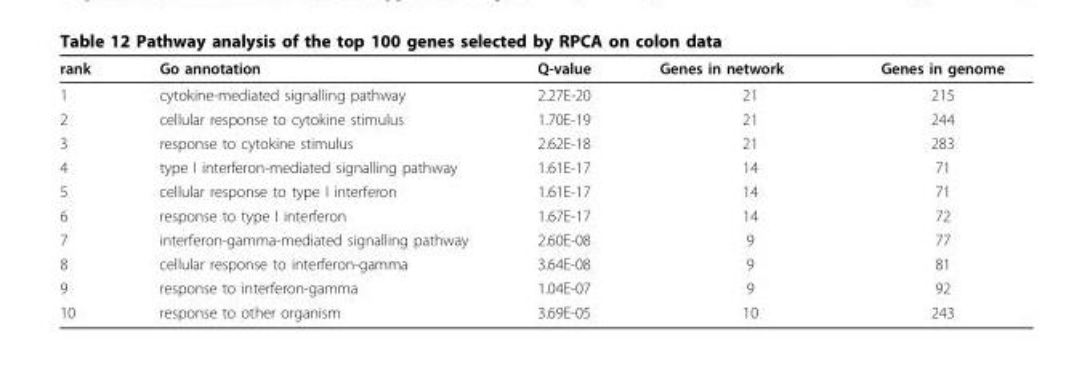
<table><thead><tr><td>rank</td><td>Go annotation</td><td>Q-value</td><td>Genes in network</td><td>Genes in genome</td></tr></thead><tbody><tr><td>1</td><td>cytokine-mediated signalling pathway</td><td>2.27E-20</td><td>21</td><td>215</td></tr><tr><td>2</td><td>cellular response to cytokine stimulus</td><td>1.70E-19</td><td>21</td><td>244</td></tr><tr><td>3</td><td>response to cytokine stimulus</td><td>2.62E-18</td><td>21</td><td>283</td></tr><tr><td>4</td><td>type I interferon-mediated signalling pathway</td><td>1.61E-17</td><td>14</td><td>71</td></tr><tr><td>5</td><td>cellular response to type I interferon</td><td>1.61E-17</td><td>14</td><td>71</td></tr><tr><td>6</td><td>response to type I interferon</td><td>1.67E-17</td><td>14</td><td>72</td></tr><tr><td>7</td><td>interferon-gamma-mediated signalling pathway</td><td>2.60E-08</td><td>9</td><td>77</td></tr><tr><td>8</td><td>cellular response to interferon-gamma</td><td>3.64E-08</td><td>9</td><td>81</td></tr><tr><td>9</td><td>response to interferon-gamma</td><td>1.04E-07</td><td>9</td><td>92</td></tr><tr><td>10</td><td>response to other organism</td><td>3.69E-05</td><td>10</td><td>243</td></tr></tbody></table>